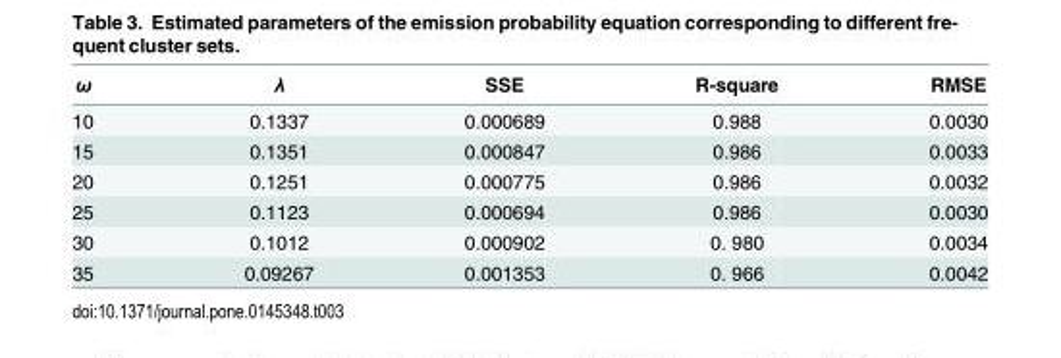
<table><thead><tr><td>ω</td><td>λ</td><td>SSE</td><td>R-square</td><td>RMSE</td></tr></thead><tbody><tr><td>10</td><td>0.1337</td><td>0.000689</td><td>0.988</td><td>0.0030</td></tr><tr><td>15</td><td>0.1351</td><td>0.000847</td><td>0.986</td><td>0.0033</td></tr><tr><td>20</td><td>0.1251</td><td>0.000775</td><td>0.986</td><td>0.0032</td></tr><tr><td>25</td><td>0.1123</td><td>0.000694</td><td>0.986</td><td>0.0030</td></tr><tr><td>30</td><td>0.1012</td><td>0.000902</td><td>0. 980</td><td>0.0034</td></tr><tr><td>35</td><td>0.09267</td><td>0.001353</td><td>0. 966</td><td>0.0042</td></tr></tbody></table>